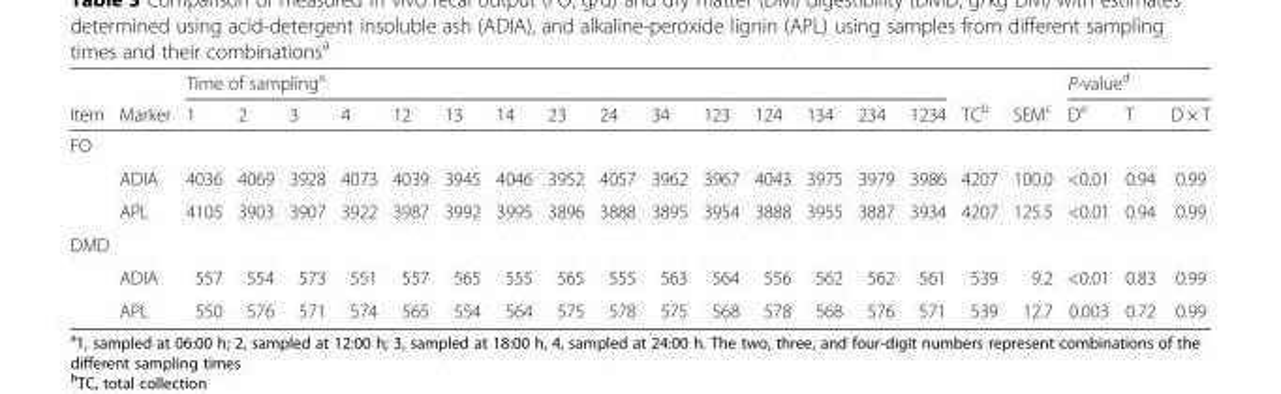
<table><thead><tr><td rowspan="2">Item</td><td rowspan="2">Marker</td><td colspan="15">Time of sampling<sup>a</sup></td><td rowspan="2">TC<sup>b</sup></td><td rowspan="2">SEM<sup>c</sup></td><td colspan="3">P-value<sup>d</sup></td></tr><tr><td>1</td><td>2</td><td>3</td><td>4</td><td>12</td><td>13</td><td>14</td><td>23</td><td>24</td><td>34</td><td>123</td><td>124</td><td>134</td><td>234</td><td>1234</td><td>D<sup>e</sup></td><td>T</td><td>D × T</td></tr></thead><tbody><tr><td colspan="22">FO</td></tr><tr><td></td><td>ADIA</td><td>4036</td><td>4069</td><td>3928</td><td>4073</td><td>4039</td><td>3945</td><td>4046</td><td>3952</td><td>4057</td><td>3962</td><td>3967</td><td>4043</td><td>3975</td><td>3979</td><td>3986</td><td>4207</td><td>100.0</td><td>&lt;0.01</td><td>0.94</td><td>0.99</td></tr><tr><td></td><td>APL</td><td>4105</td><td>3903</td><td>3907</td><td>3922</td><td>3987</td><td>3992</td><td>3995</td><td>3896</td><td>3888</td><td>3895</td><td>3954</td><td>3888</td><td>3955</td><td>3887</td><td>3934</td><td>4207</td><td>125.5</td><td>&lt;0.01</td><td>0.94</td><td>0.99</td></tr><tr><td colspan="22">DMD</td></tr><tr><td></td><td>ADIA</td><td>557</td><td>554</td><td>573</td><td>551</td><td>557</td><td>565</td><td>555</td><td>565</td><td>555</td><td>563</td><td>564</td><td>556</td><td>562</td><td>562</td><td>561</td><td>539</td><td>9.2</td><td>&lt;0.01</td><td>0.83</td><td>0.99</td></tr><tr><td></td><td>APL</td><td>550</td><td>576</td><td>571</td><td>574</td><td>565</td><td>554</td><td>564</td><td>575</td><td>578</td><td>575</td><td>568</td><td>578</td><td>568</td><td>576</td><td>571</td><td>539</td><td>12.7</td><td>0.003</td><td>0.72</td><td>0.99</td></tr></tbody></table>